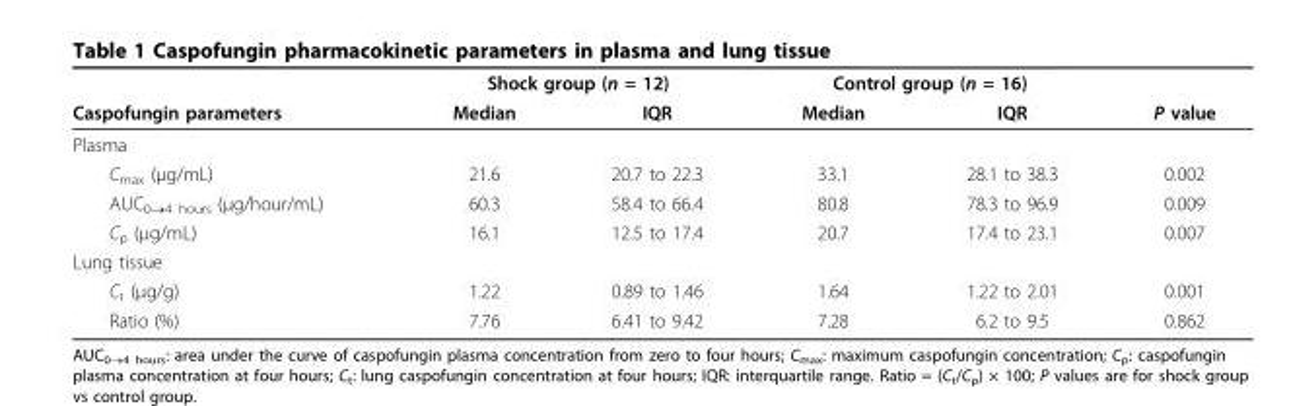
<table><thead><tr><td rowspan="2">Caspofungin parameters</td><td colspan="2">Shock group (n = 12)</td><td colspan="2">Control group (n = 16)</td><td rowspan="2">P value</td></tr><tr><td>Median</td><td>IQR</td><td>Median</td><td>IQR</td></tr></thead><tbody><tr><td colspan="6">Plasma</td></tr><tr><td>C<sub>max</sub> (μg/mL)</td><td>21.6</td><td>20.7 to 22.3</td><td>33.1</td><td>28.1 to 38.3</td><td>0.002</td></tr><tr><td>AUC<sub>0→4 hours</sub> (μg/hour/mL)</td><td>60.3</td><td>58.4 to 66.4</td><td>80.8</td><td>78.3 to 96.9</td><td>0.009</td></tr><tr><td>C<sub>p</sub> (μg/mL)</td><td>16.1</td><td>12.5 to 17.4</td><td>20.7</td><td>17.4 to 23.1</td><td>0.007</td></tr><tr><td colspan="6">Lung tissue</td></tr><tr><td>C<sub>t</sub> (μg/g)</td><td>1.22</td><td>0.89 to 1.46</td><td>1.64</td><td>1.22 to 2.01</td><td>0.001</td></tr><tr><td>Ratio (%)</td><td>7.76</td><td>6.41 to 9.42</td><td>7.28</td><td>6.2 to 9.5</td><td>0.862</td></tr></tbody></table>